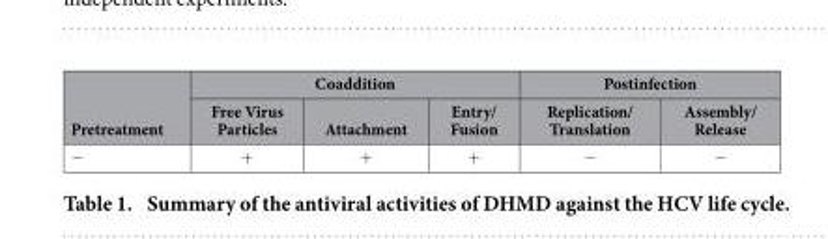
<table><thead><tr><td rowspan="2">Pretreatment</td><td colspan="3">Coaddition</td><td colspan="2">Postinfection</td></tr><tr><td>Free Virus Particles</td><td>Attachment</td><td>Entry/ Fusion</td><td>Replication/ Translation</td><td>Assembly/ Release</td></tr></thead><tbody><tr><td>−</td><td>+</td><td>+</td><td>+</td><td>−</td><td>−</td></tr></tbody></table>